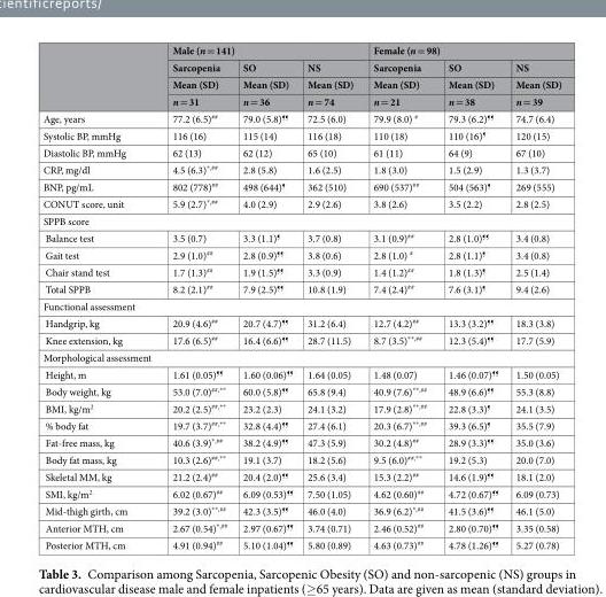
<table><thead><tr><td rowspan="4"></td><td colspan="3">Male (n = 141)</td><td colspan="3">Female (n = 98)</td></tr><tr><td rowspan="3">Sarcopenia Mean (SD) n = 31</td><td rowspan="3">SO Mean (SD) n = 36</td><td rowspan="3">NS Mean (SD) n = 74</td><td rowspan="3">Sarcopenia Mean (SD) n = 21</td><td rowspan="3">SO Mean (SD) n = 38</td><td rowspan="3">NS Mean (SD) n = 39</td></tr><tr></tr><tr></tr></thead><tbody><tr><td>Age, years</td><td>77.2 (6.5)<sup>##</sup></td><td>79.0 (5.8)<sup>¶¶</sup></td><td>72.5 (6.0)</td><td>79.9 (8.0) <sup>#</sup></td><td>79.3 (6.2)<sup>¶¶</sup></td><td>74.7 (6.4)</td></tr><tr><td>Systolic BP, mmHg</td><td>116 (16)</td><td>115 (14)</td><td>116 (18)</td><td>110 (18)</td><td>110 (16)<sup>¶</sup></td><td>120 (15)</td></tr><tr><td>Diastolic BP, mmHg</td><td>62 (13)</td><td>62 (12)</td><td>65 (10)</td><td>61 (11)</td><td>64 (9)</td><td>67 (10)</td></tr><tr><td>CRP, mg/dl</td><td>4.5 (6.3)<sup>*,##</sup></td><td>2.8 (5.8)</td><td>1.6 (2.5)</td><td>1.8 (3.0)</td><td>1.5 (2.9)</td><td>1.3 (3.7)</td></tr><tr><td>BNP, pg/mL</td><td>802 (778)<sup>##</sup></td><td>498 (644)<sup>¶</sup></td><td>362 (510)</td><td>690 (537)<sup>##</sup></td><td>504 (563)<sup>¶</sup></td><td>269 (555)</td></tr><tr><td>CONUT score, unit</td><td>5.9 (2.7)<sup>*,##</sup></td><td>4.0 (2.9)</td><td>2.9 (2.6)</td><td>3.8 (2.6)</td><td>3.5 (2.2)</td><td>2.8 (2.5)</td></tr><tr><td colspan="7">SPPB score</td></tr><tr><td>Balance test</td><td>3.5 (0.7)</td><td>3.3 (1.1)<sup>¶</sup></td><td>3.7 (0.8)</td><td>3.1 (0.9)<sup>##</sup></td><td>2.8 (1.0)<sup>¶¶</sup></td><td>3.4 (0.8)</td></tr><tr><td>Gait test</td><td>2.9 (1.0)<sup>##</sup></td><td>2.8 (0.9)<sup>¶¶</sup></td><td>3.8 (0.6)</td><td>2.8 (1.0) <sup>#</sup></td><td>2.8 (1.1)<sup>¶</sup></td><td>3.4 (0.8)</td></tr><tr><td>Chair stand test</td><td>1.7 (1.3)<sup>##</sup></td><td>1.9 (1.5)<sup>¶¶</sup></td><td>3.3 (0.9)</td><td>1.4 (1.2)<sup>##</sup></td><td>1.8 (1.3)<sup>¶</sup></td><td>2.5 (1.4)</td></tr><tr><td>Total SPPB</td><td>8.2 (2.1)<sup>##</sup></td><td>7.9 (2.5)<sup>¶¶</sup></td><td>10.8 (1.9)</td><td>7.4 (2.4)<sup>##</sup></td><td>7.6 (3.1)<sup>¶</sup></td><td>9.4 (2.6)</td></tr><tr><td colspan="7">Functional assessment</td></tr><tr><td>Handgrip, kg</td><td>20.9 (4.6)<sup>##</sup></td><td>20.7 (4.7)<sup>¶¶</sup></td><td>31.2 (6.4)</td><td>12.7 (4.2)<sup>##</sup></td><td>13.3 (3.2)<sup>¶¶</sup></td><td>18.3 (3.8)</td></tr><tr><td>Knee extension, kg</td><td>17.6 (6.5)<sup>##</sup></td><td>16.4 (6.6)<sup>¶¶</sup></td><td>28.7 (11.5)</td><td>8.7 (3.5)<sup>**,##</sup></td><td>12.3 (5.4)<sup>¶¶</sup></td><td>17.7 (5.9)</td></tr><tr><td colspan="7">Morphological assessment</td></tr><tr><td>Height, m</td><td>1.61 (0.05)<sup>¶¶</sup></td><td>1.60 (0.06)<sup>¶¶</sup></td><td>1.64 (0.05)</td><td>1.48 (0.07)</td><td>1.46 (0.07)<sup>¶¶</sup></td><td>1.50 (0.05)</td></tr><tr><td>Body weight, kg</td><td>53.0 (7.0)<sup>##,**</sup></td><td>60.0 (5.8)<sup>¶¶</sup></td><td>65.8 (9.4)</td><td>40.9 (7.6)<sup>**,##</sup></td><td>48.9 (6.6)<sup>¶¶</sup></td><td>55.3 (8.8)</td></tr><tr><td>BMI, kg/m<sup>2</sup></td><td>20.2 (2.5)<sup>##,**</sup></td><td>23.2 (2.3)</td><td>24.1 (3.2)</td><td>17.9 (2.8)<sup>**,##</sup></td><td>22.8 (3.3)<sup>¶</sup></td><td>24.1 (3.5)</td></tr><tr><td>% body fat</td><td>19.7 (3.7)<sup>##,**</sup></td><td>32.8 (4.4)<sup>¶¶</sup></td><td>27.4 (6.1)</td><td>20.3 (6.7)<sup>**,##</sup></td><td>39.3 (6.5)<sup>¶</sup></td><td>35.5 (7.9)</td></tr><tr><td>Fat-free mass, kg</td><td>40.6 (3.9)<sup>*,##</sup></td><td>38.2 (4.9)<sup>¶¶</sup></td><td>47.3 (5.9)</td><td>30.2 (4.8)<sup>##</sup></td><td>28.9 (3.3)<sup>¶¶</sup></td><td>35.0 (3.6)</td></tr><tr><td>Body fat mass, kg</td><td>10.3 (2.6)<sup>##,**</sup></td><td>19.1 (3.7)</td><td>18.2 (5.6)</td><td>9.5 (6.0)<sup>##,**</sup></td><td>19.2 (5.3)</td><td>20.0 (7.0)</td></tr><tr><td>Skeletal MM, kg</td><td>21.2 (2.4)<sup>##</sup></td><td>20.4 (2.0)<sup>¶¶</sup></td><td>25.6 (3.4)</td><td>15.3 (2.2)<sup>##</sup></td><td>14.6 (1.9)<sup>¶¶</sup></td><td>18.1 (2.0)</td></tr><tr><td>SMI, kg/m<sup>2</sup></td><td>6.02 (0.67)<sup>##</sup></td><td>6.09 (0.53)<sup>¶¶</sup></td><td>7.50 (1.05)</td><td>4.62 (0.60)<sup>##</sup></td><td>4.72 (0.67)<sup>¶¶</sup></td><td>6.09 (0.73)</td></tr><tr><td>Mid-thigh girth, cm</td><td>39.2 (3.0)<sup>**,##</sup></td><td>42.3 (3.5)<sup>¶¶</sup></td><td>46.0 (4.0)</td><td>36.9 (6.2)<sup>*,##</sup></td><td>41.5 (3.6)<sup>¶¶</sup></td><td>46.1 (5.0)</td></tr><tr><td>Anterior MTH, cm</td><td>2.67 (0.54)<sup>*,##</sup></td><td>2.97 (0.67)<sup>¶¶</sup></td><td>3.74 (0.71)</td><td>2.46 (0.52)<sup>##</sup></td><td>2.80 (0.70)<sup>¶¶</sup></td><td>3.35 (0.58)</td></tr><tr><td>Posterior MTH, cm</td><td>4.91 (0.94)<sup>##</sup></td><td>5.10 (1.04)<sup>¶¶</sup></td><td>5.80 (0.89)</td><td>4.63 (0.73)<sup>##</sup></td><td>4.78 (1.26)<sup>¶¶</sup></td><td>5.27 (0.78)</td></tr></tbody></table>